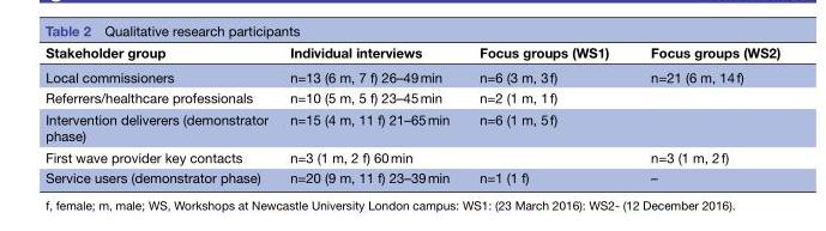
<table><thead><tr><td>Stakeholder group</td><td>Individual interviews</td><td>Focus groups (WS1)</td><td>Focus groups (WS2)</td></tr></thead><tbody><tr><td>Local commissioners</td><td>n=13 (6 m, 7 f) 26–49 min</td><td>n=6 (3 m, 3 f)</td><td>n=21 (6 m, 14 f)</td></tr><tr><td>Referrers/healthcare professionals</td><td>n=10 (5 m, 5 f) 23–45 min</td><td>n=2 (1 m, 1 f)</td><td></td></tr><tr><td>Intervention deliverers (demonstrator phase)</td><td>n=15 (4 m, 11 f) 21–65 min</td><td>n=6 (1 m, 5 f)</td><td></td></tr><tr><td>First wave provider key contacts</td><td>n=3 (1 m, 2 f) 60 min</td><td></td><td>n=3 (1 m, 2 f)</td></tr><tr><td>Service users (demonstrator phase)</td><td>n=20 (9 m, 11 f) 23–39 min</td><td>n=1 (1 f)</td><td>–</td></tr></tbody></table>